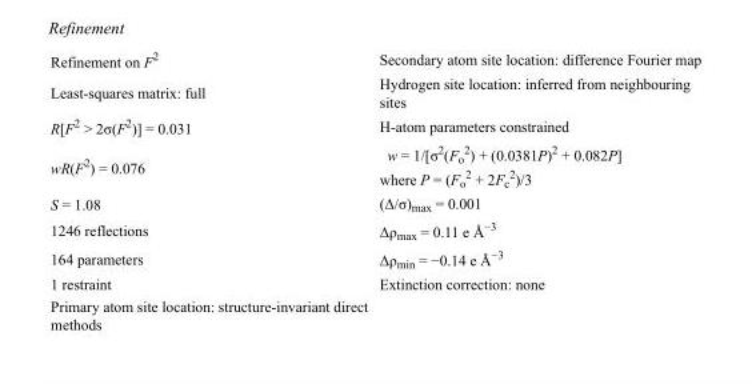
<table><tbody><tr><td>Refinement on F<sup>2</sup></td><td>Secondary atom site location: difference Fourier map</td></tr><tr><td>Least-squares matrix: full</td><td>Hydrogen site location: inferred from neighbouring sites</td></tr><tr><td>R[F<sup>2</sup> &gt; 2σ(F<sup>2</sup>)] = 0.031</td><td>H-atom parameters constrained</td></tr><tr><td>wR(F<sup>2</sup>) = 0.076</td><td>w = 1/[σ<sup>2</sup>(F<sub>o</sub> <sup>2</sup>) + (0.0381P)<sup>2</sup> + 0.082P] where P = (F<sub>o</sub> <sup>2</sup> + 2F<sub>c</sub> <sup>2</sup>)/3</td></tr><tr><td>S = 1.08</td><td>(Δ/σ)<sub>max</sub> = 0.001</td></tr><tr><td>1246 reflections</td><td>Δρ<sub>max</sub> = 0.11 e Å<sup>−3</sup></td></tr><tr><td>164 parameters</td><td>Δρ<sub>min</sub> = −0.14 e Å<sup>−3</sup></td></tr><tr><td>1 restraint</td><td>Extinction correction: none</td></tr><tr><td>Primary atom site location: structure-invariant direct methods</td><td></td></tr></tbody></table>